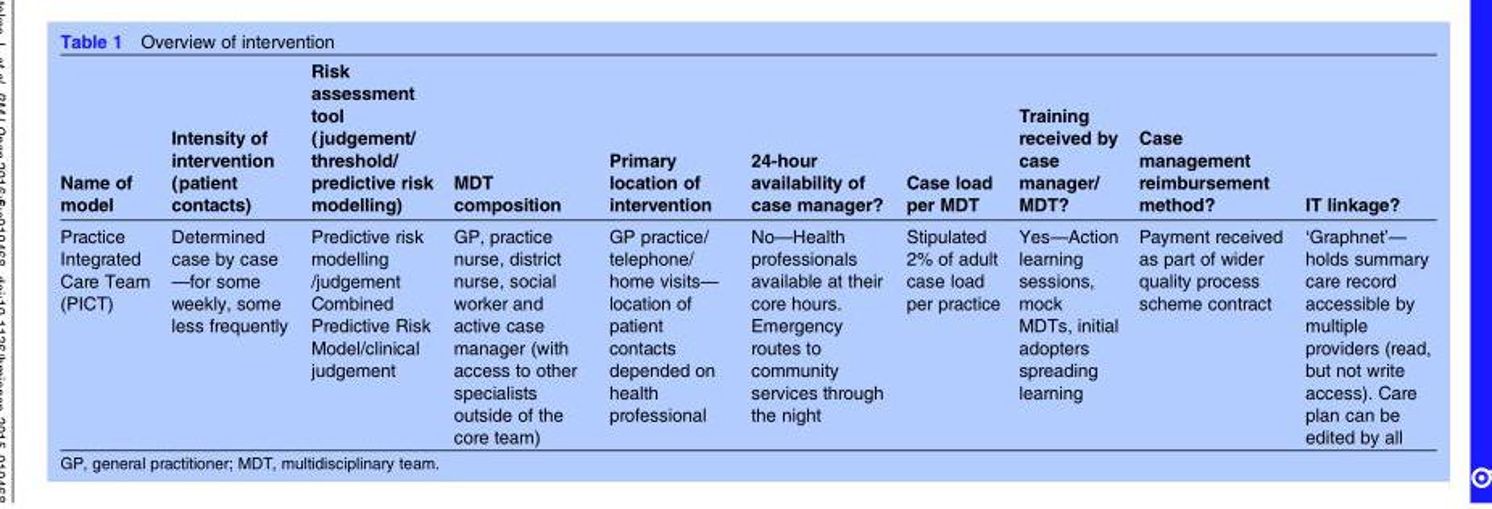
<table><thead><tr><td>Name of model</td><td>Intensity of intervention (patient contacts)</td><td>Risk assessment tool (judgement/ threshold/ predictive risk modelling)</td><td>MDT composition</td><td>Primary location of intervention</td><td>24-hour availability of case manager?</td><td>Case load per MDT</td><td>Training received by case manager/ MDT?</td><td>Case management reimbursement method?</td><td>IT linkage?</td></tr></thead><tbody><tr><td>Practice Integrated Care Team (PICT)</td><td>Determined case by case —for some weekly, some less frequently</td><td>Predictive risk modelling /judgement Combined Predictive Risk Model/clinical judgement</td><td>GP, practice nurse, district nurse, social worker and active case manager (with access to other specialists outside of the core team)</td><td>GP practice/ telephone/ home visits— location of patient contacts depended on health professional</td><td>No—Health professionals available at their core hours. Emergency routes to community services through the night</td><td>Stipulated 2% of adult case load per practice</td><td>Yes—Action learning sessions, mock MDTs, initial adopters spreading learning</td><td>Payment received as part of wider quality process scheme contract</td><td>‘Graphnet’— holds summary care record accessible by multiple providers (read, but not write access). Care plan can be edited by all</td></tr></tbody></table>